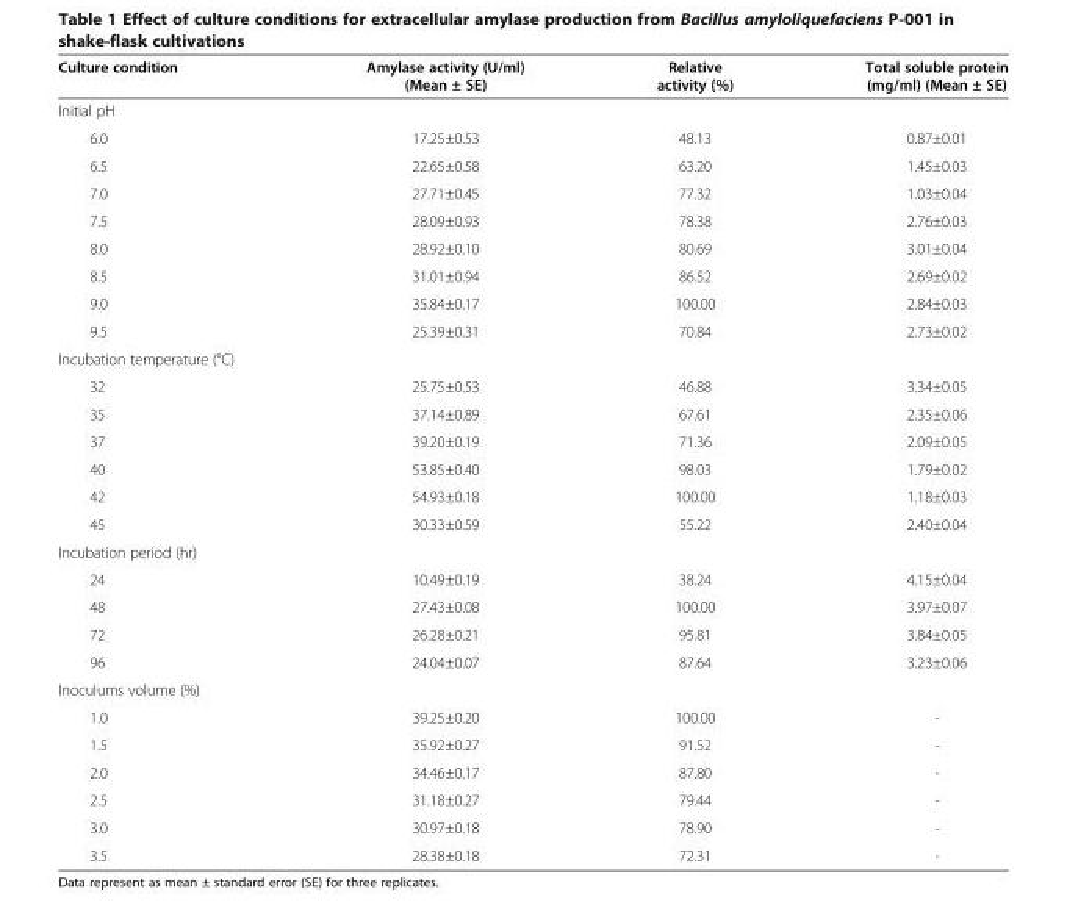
<table><thead><tr><td>Culture condition</td><td>Amylase activity (U/ml) (Mean ± SE)</td><td>Relative activity (%)</td><td>Total soluble protein (mg/ml) (Mean ± SE)</td></tr></thead><tbody><tr><td colspan="4">Initial pH</td></tr><tr><td>6.0</td><td>17.25±0.53</td><td>48.13</td><td>0.87±0.01</td></tr><tr><td>6.5</td><td>22.65±0.58</td><td>63.20</td><td>1.45±0.03</td></tr><tr><td>7.0</td><td>27.71±0.45</td><td>77.32</td><td>1.03±0.04</td></tr><tr><td>7.5</td><td>28.09±0.93</td><td>78.38</td><td>2.76±0.03</td></tr><tr><td>8.0</td><td>28.92±0.10</td><td>80.69</td><td>3.01±0.04</td></tr><tr><td>8.5</td><td>31.01±0.94</td><td>86.52</td><td>2.69±0.02</td></tr><tr><td>9.0</td><td>35.84±0.17</td><td>100.00</td><td>2.84±0.03</td></tr><tr><td>9.5</td><td>25.39±0.31</td><td>70.84</td><td>2.73±0.02</td></tr><tr><td colspan="4">Incubation temperature (°C)</td></tr><tr><td>32</td><td>25.75±0.53</td><td>46.88</td><td>3.34±0.05</td></tr><tr><td>35</td><td>37.14±0.89</td><td>67.61</td><td>2.35±0.06</td></tr><tr><td>37</td><td>39.20±0.19</td><td>71.36</td><td>2.09±0.05</td></tr><tr><td>40</td><td>53.85±0.40</td><td>98.03</td><td>1.79±0.02</td></tr><tr><td>42</td><td>54.93±0.18</td><td>100.00</td><td>1.18±0.03</td></tr><tr><td>45</td><td>30.33±0.59</td><td>55.22</td><td>2.40±0.04</td></tr><tr><td colspan="4">Incubation period (hr)</td></tr><tr><td>24</td><td>10.49±0.19</td><td>38.24</td><td>4.15±0.04</td></tr><tr><td>48</td><td>27.43±0.08</td><td>100.00</td><td>3.97±0.07</td></tr><tr><td>72</td><td>26.28±0.21</td><td>95.81</td><td>3.84±0.05</td></tr><tr><td>96</td><td>24.04±0.07</td><td>87.64</td><td>3.23±0.06</td></tr><tr><td colspan="4">Inoculums volume (%)</td></tr><tr><td>1.0</td><td>39.25±0.20</td><td>100.00</td><td>-</td></tr><tr><td>1.5</td><td>35.92±0.27</td><td>91.52</td><td>-</td></tr><tr><td>2.0</td><td>34.46±0.17</td><td>87.80</td><td>-</td></tr><tr><td>2.5</td><td>31.18±0.27</td><td>79.44</td><td>-</td></tr><tr><td>3.0</td><td>30.97±0.18</td><td>78.90</td><td>-</td></tr><tr><td>3.5</td><td>28.38±0.18</td><td>72.31</td><td>-</td></tr></tbody></table>